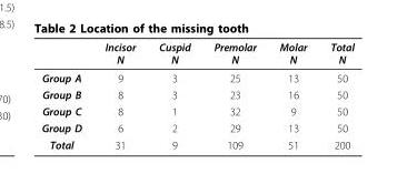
<table><thead><tr><td></td><td>Incisor N</td><td>Cuspid N</td><td>Premolar N</td><td>Molar N</td><td>Total N</td></tr></thead><tbody><tr><td>Group A</td><td>9</td><td>3</td><td>25</td><td>13</td><td>50</td></tr><tr><td>Group B</td><td>8</td><td>3</td><td>23</td><td>16</td><td>50</td></tr><tr><td>Group C</td><td>8</td><td>1</td><td>32</td><td>9</td><td>50</td></tr><tr><td>Group D</td><td>6</td><td>2</td><td>29</td><td>13</td><td>50</td></tr><tr><td>Total</td><td>31</td><td>9</td><td>109</td><td>51</td><td>200</td></tr></tbody></table>